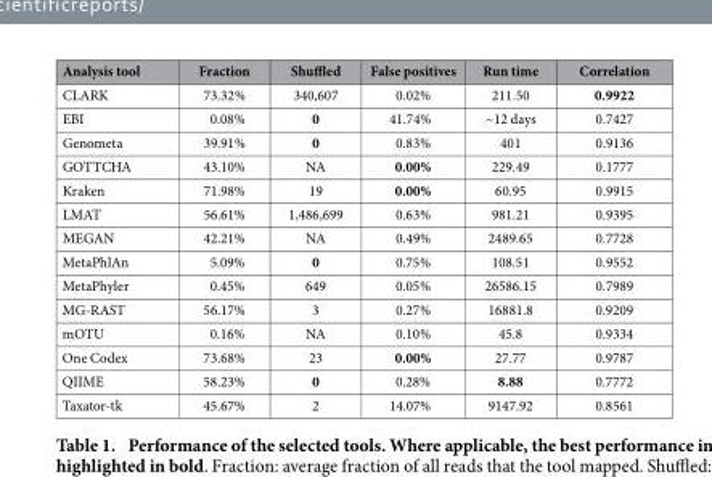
<table><thead><tr><td>Analysis tool</td><td>Fraction</td><td>Shuffled</td><td>False positives</td><td>Run time</td><td>Correlation</td></tr></thead><tbody><tr><td>CLARK</td><td>73.32%</td><td>340,607</td><td>0.02%</td><td>211.50</td><td>0.9922</td></tr><tr><td>EBI</td><td>0.08%</td><td>0</td><td>41.74%</td><td>~12 days</td><td>0.7427</td></tr><tr><td>Genometa</td><td>39.91%</td><td>0</td><td>0.83%</td><td>401</td><td>0.9136</td></tr><tr><td>GOTTCHA</td><td>43.10%</td><td>NA</td><td>0.00%</td><td>229.49</td><td>0.1777</td></tr><tr><td>Kraken</td><td>71.98%</td><td>19</td><td>0.00%</td><td>60.95</td><td>0.9915</td></tr><tr><td>LMAT</td><td>56.61%</td><td>1,486,699</td><td>0.63%</td><td>981.21</td><td>0.9395</td></tr><tr><td>MEGAN</td><td>42.21%</td><td>NA</td><td>0.49%</td><td>2489.65</td><td>0.7728</td></tr><tr><td>MetaPhlAn</td><td>5.09%</td><td>0</td><td>0.75%</td><td>108.51</td><td>0.9552</td></tr><tr><td>MetaPhyler</td><td>0.45%</td><td>649</td><td>0.05%</td><td>26586.15</td><td>0.7989</td></tr><tr><td>MG-RAST</td><td>56.17%</td><td>3</td><td>0.27%</td><td>16881.8</td><td>0.9209</td></tr><tr><td>mOTU</td><td>0.16%</td><td>NA</td><td>0.10%</td><td>45.8</td><td>0.9334</td></tr><tr><td>One Codex</td><td>73.68%</td><td>23</td><td>0.00%</td><td>27.77</td><td>0.9787</td></tr><tr><td>QIIME</td><td>58.23%</td><td>0</td><td>0.28%</td><td>8.88</td><td>0.7772</td></tr><tr><td>Taxator-tk</td><td>45.67%</td><td>2</td><td>14.07%</td><td>9147.92</td><td>0.8561</td></tr></tbody></table>